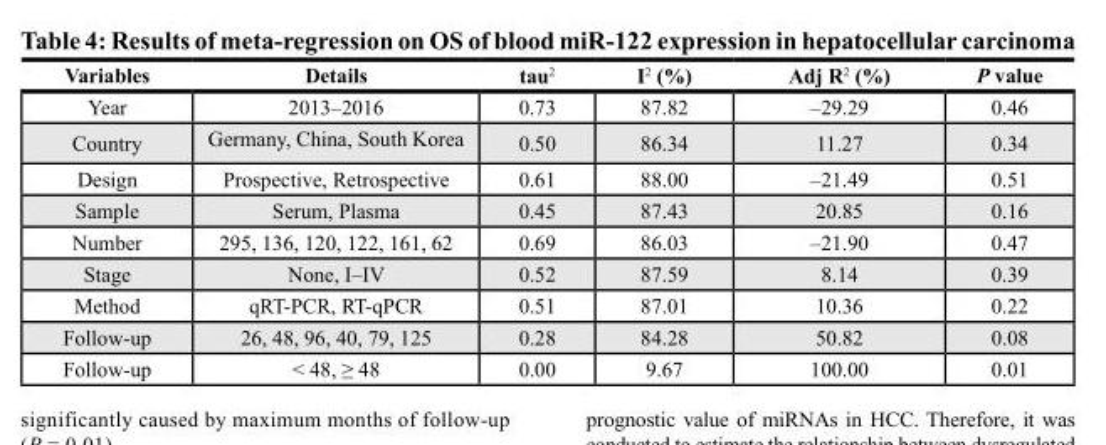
<table><thead><tr><td>Variables</td><td>Details</td><td>tau<sup>2</sup></td><td>I<sup>2</sup> (%)</td><td>Adj R<sup>2</sup> (%)</td><td>P value</td></tr></thead><tbody><tr><td>Year</td><td>2013–2016</td><td>0.73</td><td>87.82</td><td>–29.29</td><td>0.46</td></tr><tr><td>Country</td><td>Germany, China, South Korea</td><td>0.50</td><td>86.34</td><td>11.27</td><td>0.34</td></tr><tr><td>Design</td><td>Prospective, Retrospective</td><td>0.61</td><td>88.00</td><td>–21.49</td><td>0.51</td></tr><tr><td>Sample</td><td>Serum, Plasma</td><td>0.45</td><td>87.43</td><td>20.85</td><td>0.16</td></tr><tr><td>Number</td><td>295, 136, 120, 122, 161, 62</td><td>0.69</td><td>86.03</td><td>–21.90</td><td>0.47</td></tr><tr><td>Stage</td><td>None, I–IV</td><td>0.52</td><td>87.59</td><td>8.14</td><td>0.39</td></tr><tr><td>Method</td><td>qRT-PCR, RT-qPCR</td><td>0.51</td><td>87.01</td><td>10.36</td><td>0.22</td></tr><tr><td>Follow-up</td><td>26, 48, 96, 40, 79, 125</td><td>0.28</td><td>84.28</td><td>50.82</td><td>0.08</td></tr><tr><td>Follow-up</td><td>&lt; 48, ≥ 48</td><td>0.00</td><td>9.67</td><td>100.00</td><td>0.01</td></tr></tbody></table>